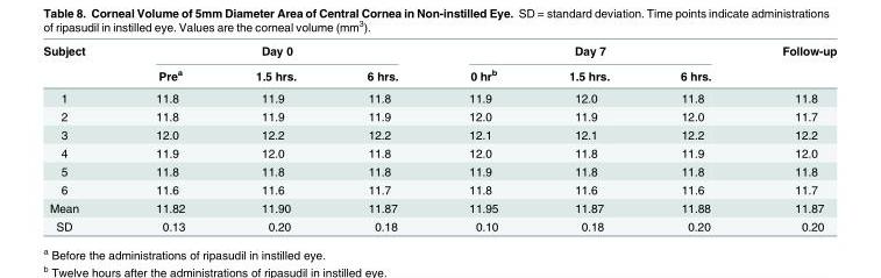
<table><thead><tr><td rowspan="2">Subject</td><td colspan="3">Day 0</td><td colspan="3">Day 7</td><td rowspan="2">Follow-up</td></tr><tr><td>Pre<sup>a</sup></td><td>1.5 hrs.</td><td>6 hrs.</td><td>0 hr<sup>b</sup></td><td>1.5 hrs.</td><td>6 hrs.</td></tr></thead><tbody><tr><td>1</td><td>11.8</td><td>11.9</td><td>11.8</td><td>11.9</td><td>12.0</td><td>11.8</td><td>11.8</td></tr><tr><td>2</td><td>11.8</td><td>11.9</td><td>11.9</td><td>12.0</td><td>11.9</td><td>12.0</td><td>11.7</td></tr><tr><td>3</td><td>12.0</td><td>12.2</td><td>12.2</td><td>12.1</td><td>12.1</td><td>12.2</td><td>12.2</td></tr><tr><td>4</td><td>11.9</td><td>12.0</td><td>11.8</td><td>12.0</td><td>11.8</td><td>11.9</td><td>12.0</td></tr><tr><td>5</td><td>11.8</td><td>11.8</td><td>11.8</td><td>11.9</td><td>11.8</td><td>11.8</td><td>11.8</td></tr><tr><td>6</td><td>11.6</td><td>11.6</td><td>11.7</td><td>11.8</td><td>11.6</td><td>11.6</td><td>11.7</td></tr><tr><td>Mean</td><td>11.82</td><td>11.90</td><td>11.87</td><td>11.95</td><td>11.87</td><td>11.88</td><td>11.87</td></tr><tr><td>SD</td><td>0.13</td><td>0.20</td><td>0.18</td><td>0.10</td><td>0.18</td><td>0.20</td><td>0.20</td></tr></tbody></table>